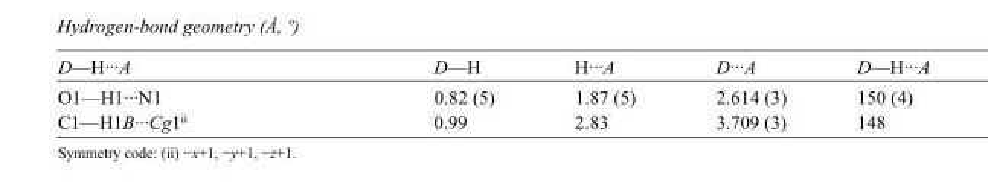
<table><tbody><tr><td>D—H···A</td><td>D—H</td><td>H···A</td><td>D···A</td><td>D—H···A</td></tr><tr><td>O1—H1···N1</td><td>0.82 (5)</td><td>1.87 (5)</td><td>2.614 (3)</td><td>150 (4)</td></tr><tr><td>C1—H1B···Cg1<sup>ii</sup></td><td>0.99</td><td>2.83</td><td>3.709 (3)</td><td>148</td></tr></tbody></table>